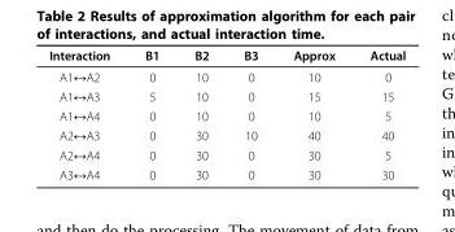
<table><thead><tr><td>Interaction</td><td>B1</td><td>B2</td><td>B3</td><td>Approx</td><td>Actual</td></tr></thead><tbody><tr><td>A1↔A2</td><td>0</td><td>10</td><td>0</td><td>10</td><td>0</td></tr><tr><td>A1↔A3</td><td>5</td><td>10</td><td>0</td><td>15</td><td>15</td></tr><tr><td>A1↔A4</td><td>0</td><td>10</td><td>0</td><td>10</td><td>5</td></tr><tr><td>A2↔A3</td><td>0</td><td>30</td><td>10</td><td>40</td><td>40</td></tr><tr><td>A2↔A4</td><td>0</td><td>30</td><td>0</td><td>30</td><td>5</td></tr><tr><td>A3↔A4</td><td>0</td><td>30</td><td>0</td><td>30</td><td>30</td></tr></tbody></table>